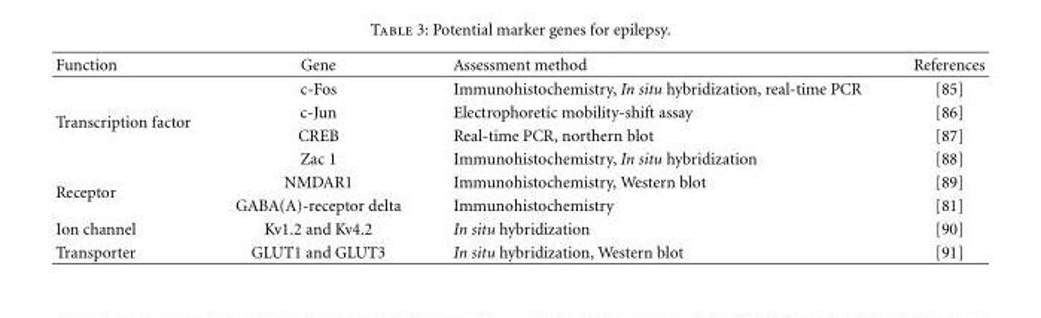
<table><thead><tr><td>Function</td><td>Gene</td><td>Assessment method</td><td>References</td></tr></thead><tbody><tr><td rowspan="4">Transcription factor</td><td>c-Fos</td><td>Immunohistochemistry, In situ hybridization, real-time PCR</td><td>[85]</td></tr><tr><td>c-Jun</td><td>Electrophoretic mobility-shift assay</td><td>[86]</td></tr><tr><td>CREB</td><td>Real-time PCR, northern blot</td><td>[87]</td></tr><tr><td>Zac 1</td><td>Immunohistochemistry, In situ hybridization</td><td>[88]</td></tr><tr><td rowspan="2">Receptor</td><td>NMDAR1</td><td>Immunohistochemistry, Western blot</td><td>[89]</td></tr><tr><td>GABA(A)-receptor delta</td><td>Immunohistochemistry</td><td>[81]</td></tr><tr><td>Ion channel</td><td>Kv1.2 and Kv4.2</td><td>In situ hybridization</td><td>[90]</td></tr><tr><td>Transporter</td><td>GLUT1 and GLUT3</td><td>In situ hybridization, Western blot</td><td>[91]</td></tr></tbody></table>